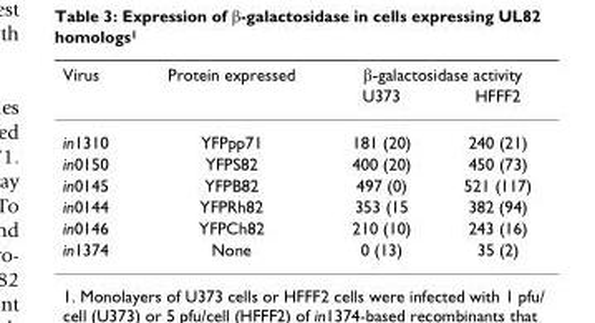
<table><thead><tr><td rowspan="2">Virus</td><td rowspan="2">Protein expressed</td><td colspan="2">β-galactosidase activity</td></tr><tr><td>U373</td><td>HFFF2</td></tr></thead><tbody><tr><td>in1310</td><td>YFPpp71</td><td>181 (20)</td><td>240 (21)</td></tr><tr><td>in0150</td><td>YFPS82</td><td>400 (20)</td><td>450 (73)</td></tr><tr><td>in0145</td><td>YFPB82</td><td>497 (0)</td><td>521 (117)</td></tr><tr><td>in0144</td><td>YFPRh82</td><td>353 (15</td><td>382 (94)</td></tr><tr><td>in0146</td><td>YFPCh82</td><td>210 (10)</td><td>243 (16)</td></tr><tr><td>in1374</td><td>None</td><td>0 (13)</td><td>35 (2)</td></tr></tbody></table>